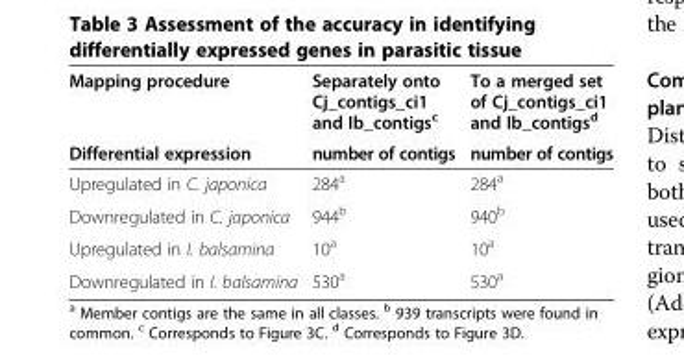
<table><thead><tr><td rowspan="2">Mapping procedure Differential expression</td><td rowspan="2">Separately onto Cj_contigs_ci1 and Ib_contigs<sup>c</sup> number of contigs</td><td rowspan="2">To a merged set of Cj_contigs_ci1 and Ib_contigs<sup>d</sup> number of contigs</td></tr><tr></tr></thead><tbody><tr><td>Upregulated in C. japonica</td><td>284<sup>a</sup></td><td>284<sup>a</sup></td></tr><tr><td>Downregulated in C. japonica</td><td>944<sup>b</sup></td><td>940<sup>b</sup></td></tr><tr><td>Upregulated in I. balsamina</td><td>10<sup>a</sup></td><td>10<sup>a</sup></td></tr><tr><td>Downregulated in I. balsamina</td><td>530<sup>a</sup></td><td>530<sup>a</sup></td></tr></tbody></table>